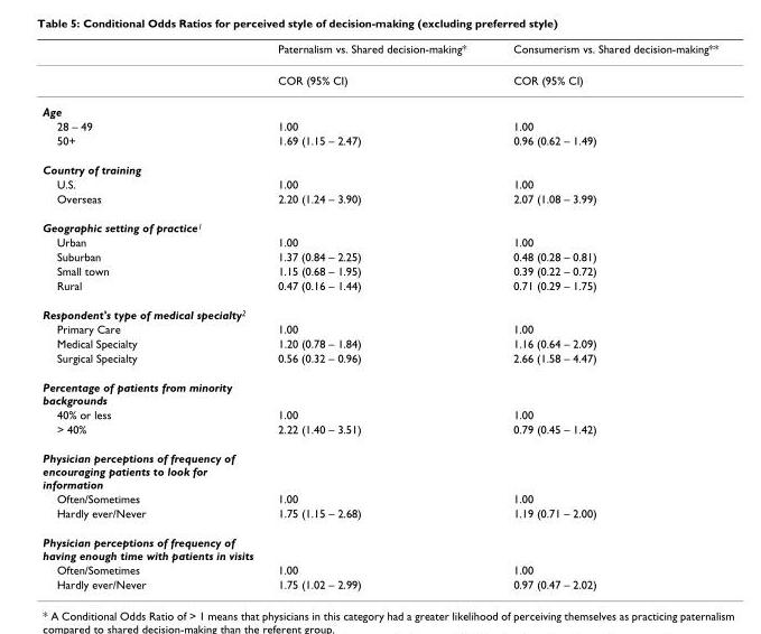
<table><thead><tr><td></td><td>Paternalism vs. Shared decision-making*</td><td>Consumerism vs. Shared decision-making**</td></tr></thead><tbody><tr><td></td><td>COR (95% CI)</td><td>COR (95% CI)</td></tr><tr><td colspan="3">Age</td></tr><tr><td>28 – 49</td><td>1.00</td><td>1.00</td></tr><tr><td>50+</td><td>1.69 (1.15 – 2.47)</td><td>0.96 (0.62 – 1.49)</td></tr><tr><td colspan="3">Country of training</td></tr><tr><td>U.S.</td><td>1.00</td><td>1.00</td></tr><tr><td>Overseas</td><td>2.20 (1.24 – 3.90)</td><td>2.07 (1.08 – 3.99)</td></tr><tr><td colspan="3">Geographic setting of practice<sup>1</sup></td></tr><tr><td>Urban</td><td>1.00</td><td>1.00</td></tr><tr><td>Suburban</td><td>1.37 (0.84 – 2.25)</td><td>0.48 (0.28 – 0.81)</td></tr><tr><td>Small town</td><td>1.15 (0.68 – 1.95)</td><td>0.39 (0.22 – 0.72)</td></tr><tr><td>Rural</td><td>0.47 (0.16 – 1.44)</td><td>0.71 (0.29 – 1.75)</td></tr><tr><td colspan="3">Respondent&#x27;s type of medical specialty<sup>2</sup></td></tr><tr><td>Primary Care</td><td>1.00</td><td>1.00</td></tr><tr><td>Medical Specialty</td><td>1.20 (0.78 – 1.84)</td><td>1.16 (0.64 – 2.09)</td></tr><tr><td>Surgical Specialty</td><td>0.56 (0.32 – 0.96)</td><td>2.66 (1.58 – 4.47)</td></tr><tr><td colspan="3">Percentage of patients from minority backgrounds</td></tr><tr><td>40% or less</td><td>1.00</td><td>1.00</td></tr><tr><td>&gt; 40%</td><td>2.22 (1.40 – 3.51)</td><td>0.79 (0.45 – 1.42)</td></tr><tr><td colspan="3">Physician perceptions of frequency of encouraging patients to look for information</td></tr><tr><td>Often/Sometimes</td><td>1.00</td><td>1.00</td></tr><tr><td>Hardly ever/Never</td><td>1.75 (1.15 – 2.68)</td><td>1.19 (0.71 – 2.00)</td></tr><tr><td colspan="3">Physician perceptions of frequency of having enough time with patients in visits</td></tr><tr><td>Often/Sometimes</td><td>1.00</td><td>1.00</td></tr><tr><td>Hardly ever/Never</td><td>1.75 (1.02 – 2.99)</td><td>0.97 (0.47 – 2.02)</td></tr></tbody></table>